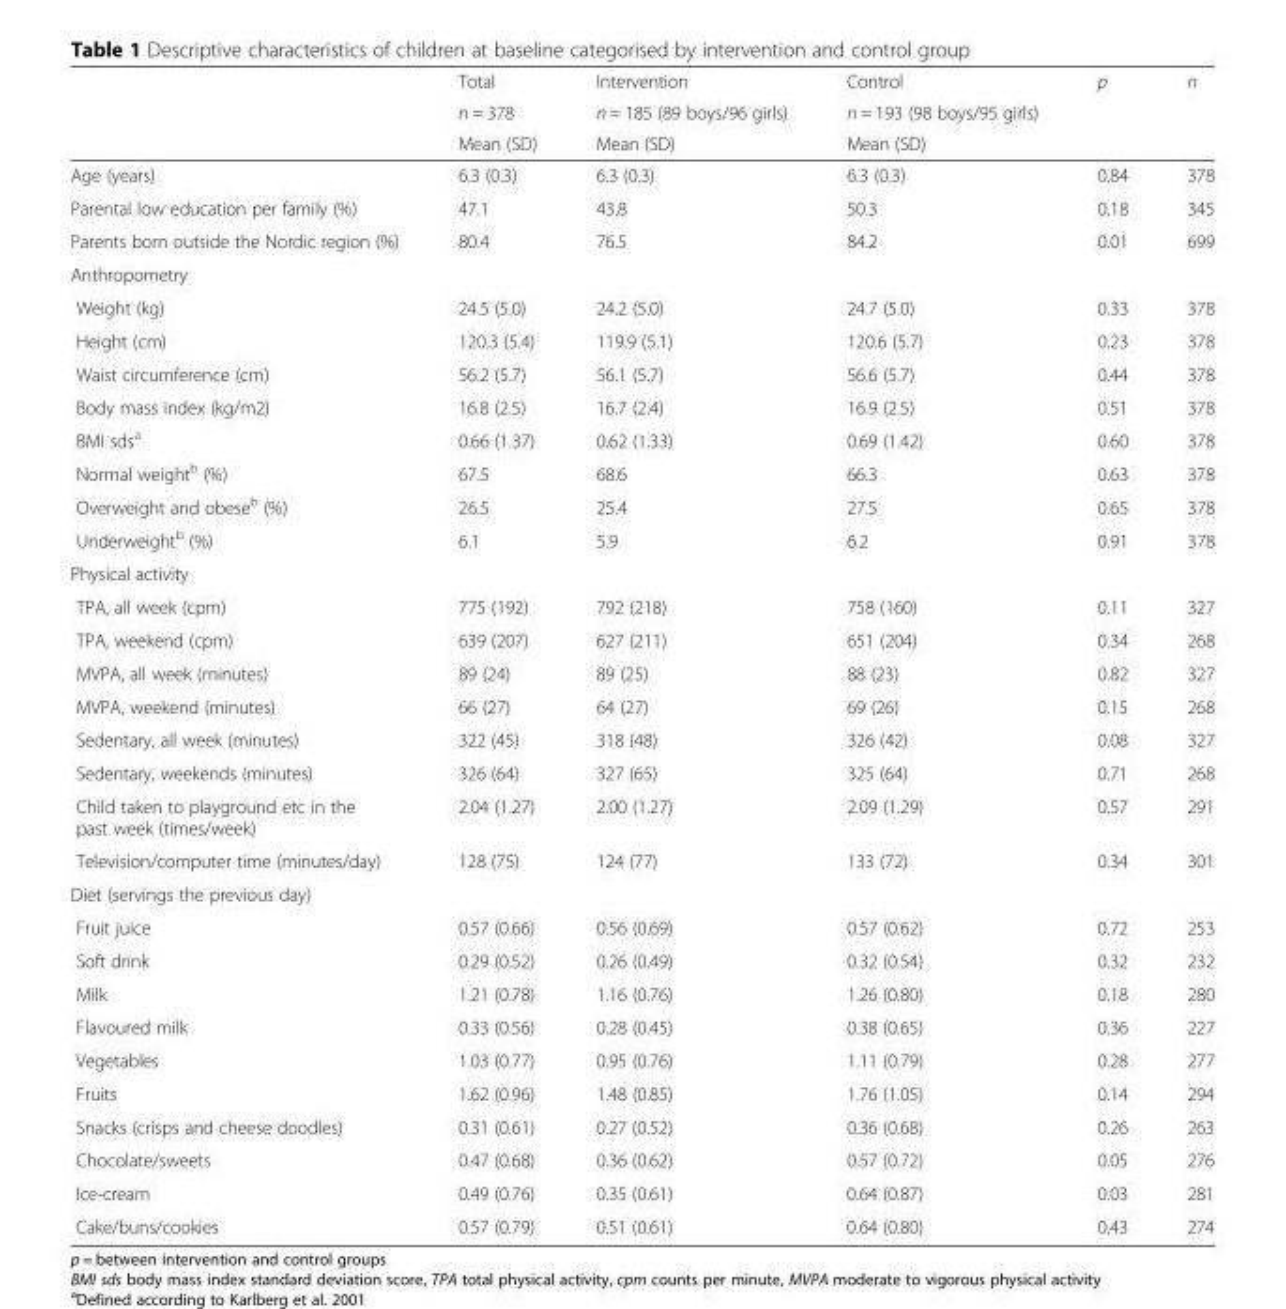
<table><thead><tr><td rowspan="3"></td><td rowspan="3">Total n = 378 Mean (SD)</td><td rowspan="3">Intervention n = 185 (89 boys/96 girls) Mean (SD)</td><td rowspan="3">Control n = 193 (98 boys/95 girls) Mean (SD)</td><td rowspan="3">p</td><td rowspan="3">n</td></tr><tr></tr><tr></tr></thead><tbody><tr><td>Age (years)</td><td>6.3 (0.3)</td><td>6.3 (0.3)</td><td>6.3 (0.3)</td><td>0.84</td><td>378</td></tr><tr><td>Parental low education per family (%)</td><td>47.1</td><td>43.8</td><td>50.3</td><td>0.18</td><td>345</td></tr><tr><td>Parents born outside the Nordic region (%)</td><td>80.4</td><td>76.5</td><td>84.2</td><td>0.01</td><td>699</td></tr><tr><td colspan="6">Anthropometry</td></tr><tr><td>Weight (kg)</td><td>24.5 (5.0)</td><td>24.2 (5.0)</td><td>24.7 (5.0)</td><td>0.33</td><td>378</td></tr><tr><td>Height (cm)</td><td>120.3 (5.4)</td><td>119.9 (5.1)</td><td>120.6 (5.7)</td><td>0.23</td><td>378</td></tr><tr><td>Waist circumference (cm)</td><td>56.2 (5.7)</td><td>56.1 (5.7)</td><td>56.6 (5.7)</td><td>0.44</td><td>378</td></tr><tr><td>Body mass index (kg/m2)</td><td>16.8 (2.5)</td><td>16.7 (2.4)</td><td>16.9 (2.5)</td><td>0.51</td><td>378</td></tr><tr><td>BMI sds<sup>a</sup></td><td>0.66 (1.37)</td><td>0.62 (1.33)</td><td>0.69 (1.42)</td><td>0.60</td><td>378</td></tr><tr><td>Normal weight<sup>b</sup> (%)</td><td>67.5</td><td>68.6</td><td>66.3</td><td>0.63</td><td>378</td></tr><tr><td>Overweight and obese<sup>b</sup> (%)</td><td>26.5</td><td>25.4</td><td>27.5</td><td>0.65</td><td>378</td></tr><tr><td>Underweight<sup>b</sup> (%)</td><td>6.1</td><td>5.9</td><td>6.2</td><td>0.91</td><td>378</td></tr><tr><td colspan="6">Physical activity</td></tr><tr><td>TPA, all week (cpm)</td><td>775 (192)</td><td>792 (218)</td><td>758 (160)</td><td>0.11</td><td>327</td></tr><tr><td>TPA, weekend (cpm)</td><td>639 (207)</td><td>627 (211)</td><td>651 (204)</td><td>0.34</td><td>268</td></tr><tr><td>MVPA, all week (minutes)</td><td>89 (24)</td><td>89 (25)</td><td>88 (23)</td><td>0.82</td><td>327</td></tr><tr><td>MVPA, weekend (minutes)</td><td>66 (27)</td><td>64 (27)</td><td>69 (26)</td><td>0.15</td><td>268</td></tr><tr><td>Sedentary, all week (minutes)</td><td>322 (45)</td><td>318 (48)</td><td>326 (42)</td><td>0.08</td><td>327</td></tr><tr><td>Sedentary, weekends (minutes)</td><td>326 (64)</td><td>327 (65)</td><td>325 (64)</td><td>0.71</td><td>268</td></tr><tr><td>Child taken to playground etc in the past week (times/week)</td><td>2.04 (1.27)</td><td>2.00 (1.27)</td><td>2.09 (1.29)</td><td>0.57</td><td>291</td></tr><tr><td>Television/computer time (minutes/day)</td><td>128 (75)</td><td>124 (77)</td><td>133 (72)</td><td>0.34</td><td>301</td></tr><tr><td colspan="6">Diet (servings the previous day)</td></tr><tr><td>Fruit juice</td><td>0.57 (0.66)</td><td>0.56 (0.69)</td><td>0.57 (0.62)</td><td>0.72</td><td>253</td></tr><tr><td>Soft drink</td><td>0.29 (0.52)</td><td>0.26 (0.49)</td><td>0.32 (0.54)</td><td>0.32</td><td>232</td></tr><tr><td>Milk</td><td>1.21 (0.78)</td><td>1.16 (0.76)</td><td>1.26 (0.80)</td><td>0.18</td><td>280</td></tr><tr><td>Flavoured milk</td><td>0.33 (0.56)</td><td>0.28 (0.45)</td><td>0.38 (0.65)</td><td>0.36</td><td>227</td></tr><tr><td>Vegetables</td><td>1.03 (0.77)</td><td>0.95 (0.76)</td><td>1.11 (0.79)</td><td>0.28</td><td>277</td></tr><tr><td>Fruits</td><td>1.62 (0.96)</td><td>1.48 (0.85)</td><td>1.76 (1.05)</td><td>0.14</td><td>294</td></tr><tr><td>Snacks (crisps and cheese doodles)</td><td>0.31 (0.61)</td><td>0.27 (0.52)</td><td>0.36 (0.68)</td><td>0.26</td><td>263</td></tr><tr><td>Chocolate/sweets</td><td>0.47 (0.68)</td><td>0.36 (0.62)</td><td>0.57 (0.72)</td><td>0.05</td><td>276</td></tr><tr><td>Ice-cream</td><td>0.49 (0.76)</td><td>0.35 (0.61)</td><td>0.64 (0.87)</td><td>0.03</td><td>281</td></tr><tr><td>Cake/buns/cookies</td><td>0.57 (0.79)</td><td>0.51 (0.61)</td><td>0.64 (0.80)</td><td>0.43</td><td>274</td></tr></tbody></table>